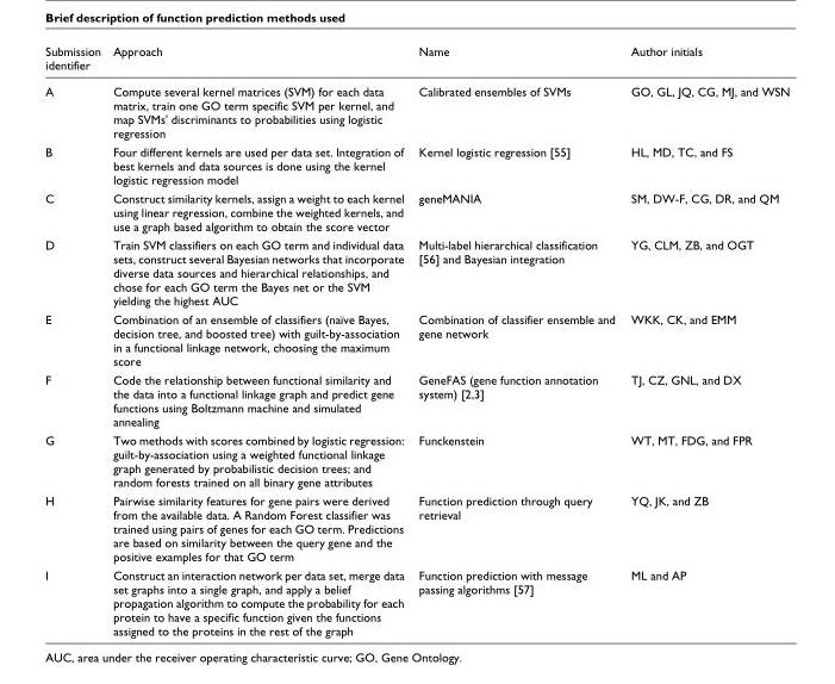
<table><thead><tr><td>Submission identifier</td><td>Approach</td><td>Name</td><td>Author initials</td></tr></thead><tbody><tr><td>A</td><td>Compute several kernel matrices (SVM) for each data matrix, train one GO term specific SVM per kernel, and map SVMs&#x27; discriminants to probabilities using logistic regression</td><td>Calibrated ensembles of SVMs</td><td>GO, GL, JQ, CG, MJ, and WSN</td></tr><tr><td>B</td><td>Four different kernels are used per data set. Integration of best kernels and data sources is done using the kernel logistic regression model</td><td>Kernel logistic regression [55]</td><td>HL, MD, TC, and FS</td></tr><tr><td>C</td><td>Construct similarity kernels, assign a weight to each kernel using linear regression, combine the weighted kernels, and use a graph based algorithm to obtain the score vector</td><td>geneMANIA</td><td>SM, DW-F, CG, DR, and QM</td></tr><tr><td>D</td><td>Train SVM classifiers on each GO term and individual data sets, construct several Bayesian networks that incorporate diverse data sources and hierarchical relationships, and chose for each GO term the Bayes net or the SVM yielding the highest AUC</td><td>Multi-label hierarchical classification [56] and Bayesian integration</td><td>YG, CLM, ZB, and OGT</td></tr><tr><td>E</td><td>Combination of an ensemble of classifiers (naïve Bayes, decision tree, and boosted tree) with guilt-by-association in a functional linkage network, choosing the maximum score</td><td>Combination of classifier ensemble and gene network</td><td>WKK, CK, and EMM</td></tr><tr><td>F</td><td>Code the relationship between functional similarity and the data into a functional linkage graph and predict gene functions using Boltzmann machine and simulated annealing</td><td>GeneFAS (gene function annotation system) [2,3]</td><td>TJ, CZ, GNL, and DX</td></tr><tr><td>G</td><td>Two methods with scores combined by logistic regression: guilt-by-association using a weighted functional linkage graph generated by probabilistic decision trees; and random forests trained on all binary gene attributes</td><td>Funckenstein</td><td>WT, MT, FDG, and FPR</td></tr><tr><td>H</td><td>Pairwise similarity features for gene pairs were derived from the available data. A Random Forest classifier was trained using pairs of genes for each GO term. Predictions are based on similarity between the query gene and the positive examples for that GO term</td><td>Function prediction through query retrieval</td><td>YQ, JK, and ZB</td></tr><tr><td>I</td><td>Construct an interaction network per data set, merge data set graphs into a single graph, and apply a belief propagation algorithm to compute the probability for each protein to have a specific function given the functions assigned to the proteins in the rest of the graph</td><td>Function prediction with message passing algorithms [57]</td><td>ML and AP</td></tr></tbody></table>